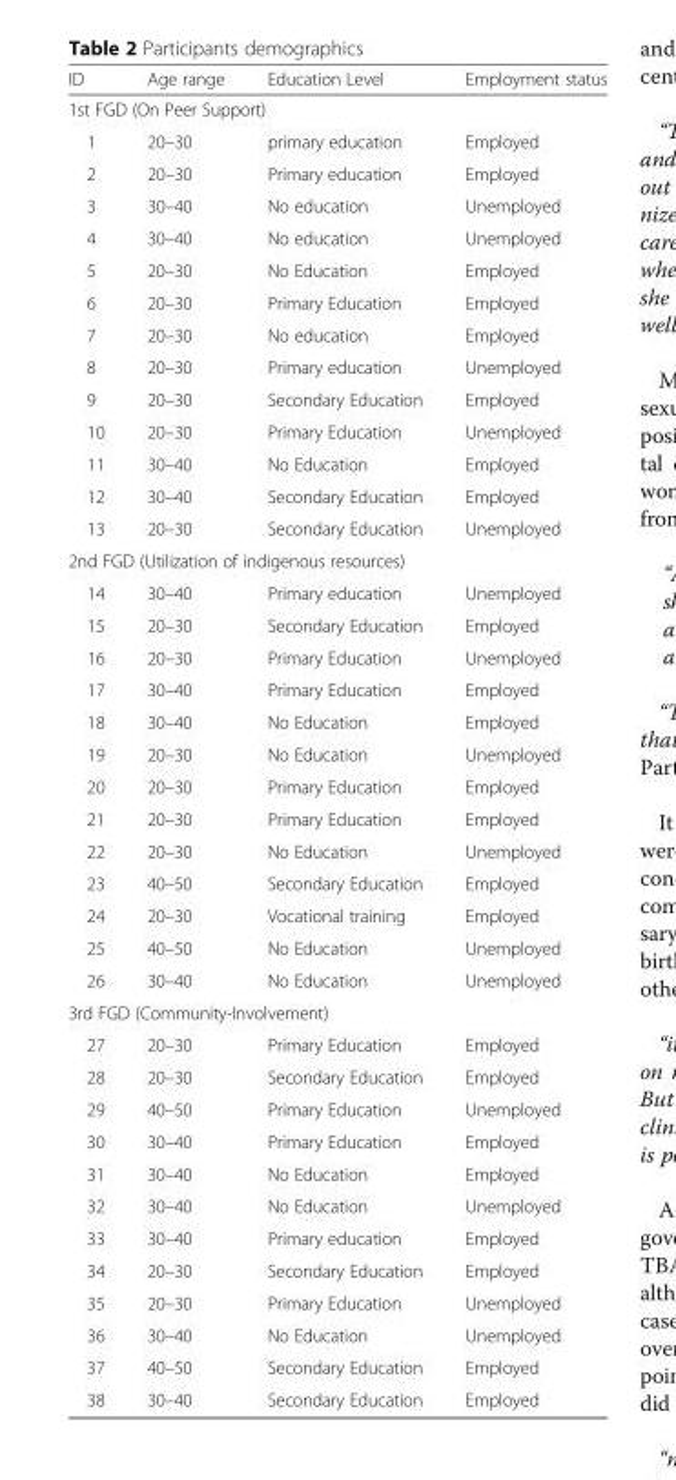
<table><thead><tr><td>ID</td><td>Age range</td><td>Education Level</td><td>Employment status</td></tr></thead><tbody><tr><td colspan="4">1st FGD (On Peer Support)</td></tr><tr><td>1</td><td>20–30</td><td>primary education</td><td>Employed</td></tr><tr><td>2</td><td>20–30</td><td>Primary education</td><td>Employed</td></tr><tr><td>3</td><td>30–40</td><td>No education</td><td>Unemployed</td></tr><tr><td>4</td><td>30–40</td><td>No education</td><td>Unemployed</td></tr><tr><td>5</td><td>20–30</td><td>No Education</td><td>Employed</td></tr><tr><td>6</td><td>20–30</td><td>Primary Education</td><td>Employed</td></tr><tr><td>7</td><td>20–30</td><td>No education</td><td>Employed</td></tr><tr><td>8</td><td>20–30</td><td>Primary education</td><td>Unemployed</td></tr><tr><td>9</td><td>20–30</td><td>Secondary Education</td><td>Employed</td></tr><tr><td>10</td><td>20–30</td><td>Primary Education</td><td>Unemployed</td></tr><tr><td>11</td><td>30–40</td><td>No Education</td><td>Employed</td></tr><tr><td>12</td><td>30–40</td><td>Secondary Education</td><td>Employed</td></tr><tr><td>13</td><td>20–30</td><td>Secondary Education</td><td>Unemployed</td></tr><tr><td colspan="4">2nd FGD (Utilization of indigenous resources)</td></tr><tr><td>14</td><td>30–40</td><td>Primary education</td><td>Unemployed</td></tr><tr><td>15</td><td>20–30</td><td>Secondary Education</td><td>Employed</td></tr><tr><td>16</td><td>20–30</td><td>Primary Education</td><td>Unemployed</td></tr><tr><td>17</td><td>30–40</td><td>Primary Education</td><td>Employed</td></tr><tr><td>18</td><td>30–40</td><td>No Education</td><td>Employed</td></tr><tr><td>19</td><td>20–30</td><td>No Education</td><td>Unemployed</td></tr><tr><td>20</td><td>20–30</td><td>Primary Education</td><td>Employed</td></tr><tr><td>21</td><td>20–30</td><td>Primary Education</td><td>Employed</td></tr><tr><td>22</td><td>20–30</td><td>No Education</td><td>Unemployed</td></tr><tr><td>23</td><td>40–50</td><td>Secondary Education</td><td>Employed</td></tr><tr><td>24</td><td>20–30</td><td>Vocational training</td><td>Employed</td></tr><tr><td>25</td><td>40–50</td><td>No Education</td><td>Unemployed</td></tr><tr><td>26</td><td>30–40</td><td>No Education</td><td>Unemployed</td></tr><tr><td colspan="4">3rd FGD (Community-Involvement)</td></tr><tr><td>27</td><td>20–30</td><td>Primary Education</td><td>Employed</td></tr><tr><td>28</td><td>20–30</td><td>Secondary Education</td><td>Employed</td></tr><tr><td>29</td><td>40–50</td><td>Primary Education</td><td>Unemployed</td></tr><tr><td>30</td><td>30–40</td><td>Primary Education</td><td>Employed</td></tr><tr><td>31</td><td>30–40</td><td>No Education</td><td>Employed</td></tr><tr><td>32</td><td>30–40</td><td>No Education</td><td>Unemployed</td></tr><tr><td>33</td><td>30–40</td><td>Primary education</td><td>Employed</td></tr><tr><td>34</td><td>20–30</td><td>Secondary Education</td><td>Employed</td></tr><tr><td>35</td><td>20–30</td><td>Primary Education</td><td>Unemployed</td></tr><tr><td>36</td><td>30–40</td><td>No Education</td><td>Unemployed</td></tr><tr><td>37</td><td>40–50</td><td>Secondary Education</td><td>Employed</td></tr><tr><td>38</td><td>30–40</td><td>Secondary Education</td><td>Employed</td></tr></tbody></table>